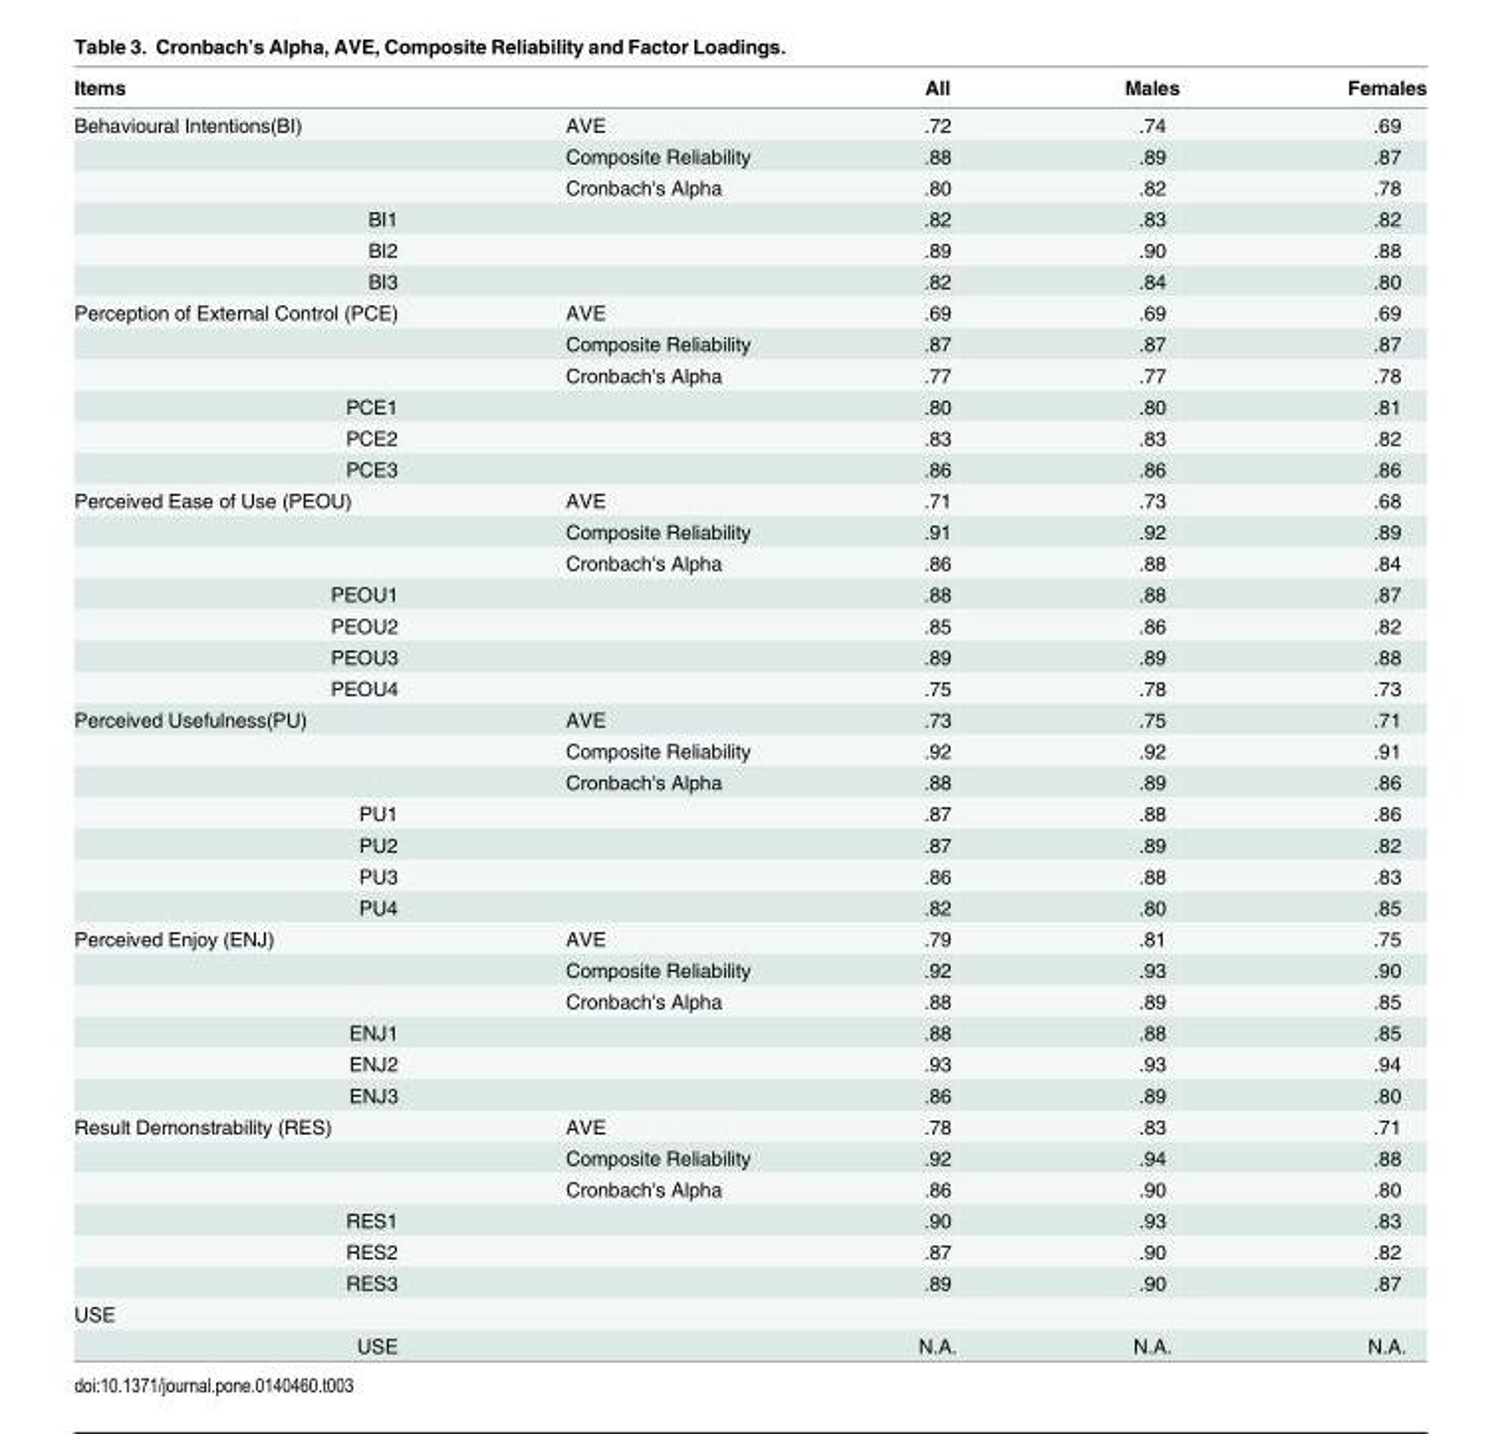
<table><thead><tr><td>Items</td><td></td><td>All</td><td>Males</td><td>Females</td></tr></thead><tbody><tr><td rowspan="3">Behavioural Intentions(BI)</td><td>AVE</td><td>.72</td><td>.74</td><td>.69</td></tr><tr><td>Composite Reliability</td><td>.88</td><td>.89</td><td>.87</td></tr><tr><td>Cronbach&#x27;s Alpha</td><td>.80</td><td>.82</td><td>.78</td></tr><tr><td>BI1</td><td></td><td>.82</td><td>.83</td><td>.82</td></tr><tr><td>BI2</td><td></td><td>.89</td><td>.90</td><td>.88</td></tr><tr><td>BI3</td><td></td><td>.82</td><td>.84</td><td>.80</td></tr><tr><td rowspan="3">Perception of External Control (PCE)</td><td>AVE</td><td>.69</td><td>.69</td><td>.69</td></tr><tr><td>Composite Reliability</td><td>.87</td><td>.87</td><td>.87</td></tr><tr><td>Cronbach&#x27;s Alpha</td><td>.77</td><td>.77</td><td>.78</td></tr><tr><td>PCE1</td><td></td><td>.80</td><td>.80</td><td>.81</td></tr><tr><td>PCE2</td><td></td><td>.83</td><td>.83</td><td>.82</td></tr><tr><td>PCE3</td><td></td><td>.86</td><td>.86</td><td>.86</td></tr><tr><td rowspan="3">Perceived Ease of Use (PEOU)</td><td>AVE</td><td>.71</td><td>.73</td><td>.68</td></tr><tr><td>Composite Reliability</td><td>.91</td><td>.92</td><td>.89</td></tr><tr><td>Cronbach&#x27;s Alpha</td><td>.86</td><td>.88</td><td>.84</td></tr><tr><td>PEOU1</td><td></td><td>.88</td><td>.88</td><td>.87</td></tr><tr><td>PEOU2</td><td></td><td>.85</td><td>.86</td><td>.82</td></tr><tr><td>PEOU3</td><td></td><td>.89</td><td>.89</td><td>.88</td></tr><tr><td>PEOU4</td><td></td><td>.75</td><td>.78</td><td>.73</td></tr><tr><td rowspan="3">Perceived Usefulness(PU)</td><td>AVE</td><td>.73</td><td>.75</td><td>.71</td></tr><tr><td>Composite Reliability</td><td>.92</td><td>.92</td><td>.91</td></tr><tr><td>Cronbach&#x27;s Alpha</td><td>.88</td><td>.89</td><td>.86</td></tr><tr><td>PU1</td><td></td><td>.87</td><td>.88</td><td>.86</td></tr><tr><td>PU2</td><td></td><td>.87</td><td>.89</td><td>.82</td></tr><tr><td>PU3</td><td></td><td>.86</td><td>.88</td><td>.83</td></tr><tr><td>PU4</td><td></td><td>.82</td><td>.80</td><td>.85</td></tr><tr><td rowspan="3">Perceived Enjoy (ENJ)</td><td>AVE</td><td>.79</td><td>.81</td><td>.75</td></tr><tr><td>Composite Reliability</td><td>.92</td><td>.93</td><td>.90</td></tr><tr><td>Cronbach&#x27;s Alpha</td><td>.88</td><td>.89</td><td>.85</td></tr><tr><td>ENJ1</td><td></td><td>.88</td><td>.88</td><td>.85</td></tr><tr><td>ENJ2</td><td></td><td>.93</td><td>.93</td><td>.94</td></tr><tr><td>ENJ3</td><td></td><td>.86</td><td>.89</td><td>.80</td></tr><tr><td rowspan="3">Result Demonstrability (RES)</td><td>AVE</td><td>.78</td><td>.83</td><td>.71</td></tr><tr><td>Composite Reliability</td><td>.92</td><td>.94</td><td>.88</td></tr><tr><td>Cronbach&#x27;s Alpha</td><td>.86</td><td>.90</td><td>.80</td></tr><tr><td>RES1</td><td></td><td>.90</td><td>.93</td><td>.83</td></tr><tr><td>RES2</td><td></td><td>.87</td><td>.90</td><td>.82</td></tr><tr><td>RES3</td><td></td><td>.89</td><td>.90</td><td>.87</td></tr><tr><td colspan="5">USE</td></tr><tr><td>USE</td><td></td><td>N.A.</td><td>N.A.</td><td>N.A.</td></tr></tbody></table>